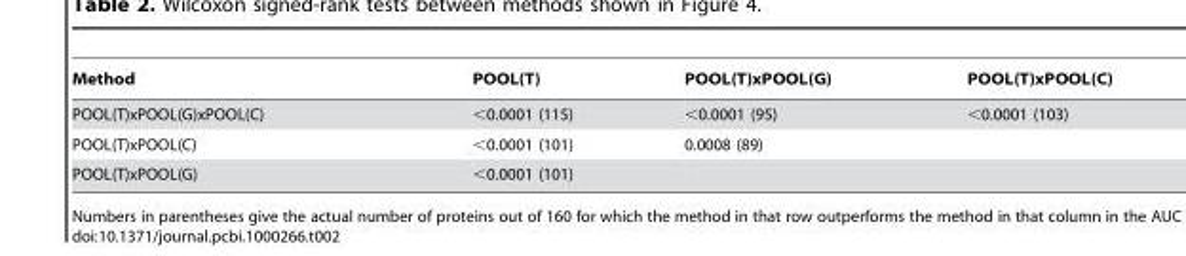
<table><thead><tr><td>Method</td><td>POOL(T)</td><td>POOL(T)xPOOL(G)</td><td>POOL(T)xPOOL(C)</td></tr></thead><tbody><tr><td>POOL(T)xPOOL(G)xPOOL(C)</td><td>&lt;0.0001 (115)</td><td>&lt;0.0001 (95)</td><td>&lt;0.0001 (103)</td></tr><tr><td>POOL(T)xPOOL(C)</td><td>&lt;0.0001 (101)</td><td>0.0008 (89)</td><td></td></tr><tr><td>POOL(T)xPOOL(G)</td><td>&lt;0.0001 (101)</td><td></td><td></td></tr></tbody></table>